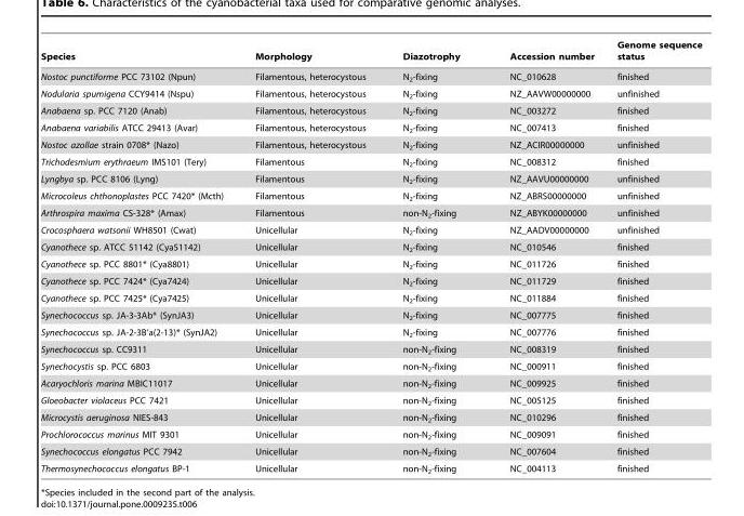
<table><thead><tr><td>Species</td><td>Morphology</td><td>Diazotrophy</td><td>Accession number</td><td>Genome sequence status</td></tr></thead><tbody><tr><td>Nostoc punctiforme PCC 73102 (Npun)</td><td>Filamentous, heterocystous</td><td>N<sub>2</sub>-fixing</td><td>NC_010628</td><td>finished</td></tr><tr><td>Nodularia spumigena CCY9414 (Nspu)</td><td>Filamentous, heterocystous</td><td>N<sub>2</sub>-fixing</td><td>NZ_AAVW00000000</td><td>unfinished</td></tr><tr><td>Anabaena sp. PCC 7120 (Anab)</td><td>Filamentous, heterocystous</td><td>N<sub>2</sub>-fixing</td><td>NC_003272</td><td>finished</td></tr><tr><td>Anabaena variabilis ATCC 29413 (Avar)</td><td>Filamentous, heterocystous</td><td>N<sub>2</sub>-fixing</td><td>NC_007413</td><td>finished</td></tr><tr><td>Nostoc azollae strain 0708* (Nazo)</td><td>Filamentous, heterocystous</td><td>N<sub>2</sub>-fixing</td><td>NZ_ACIR00000000</td><td>unfinished</td></tr><tr><td>Trichodesmium erythraeum IMS101 (Tery)</td><td>Filamentous</td><td>N<sub>2</sub>-fixing</td><td>NC_008312</td><td>finished</td></tr><tr><td>Lyngbya sp. PCC 8106 (Lyng)</td><td>Filamentous</td><td>N<sub>2</sub>-fixing</td><td>NZ_AAVU00000000</td><td>unfinished</td></tr><tr><td>Microcoleus chthonoplastes PCC 7420* (Mcth)</td><td>Filamentous</td><td>N<sub>2</sub>-fixing</td><td>NZ_ABRS00000000</td><td>unfinished</td></tr><tr><td>Arthrospira maxima CS-328* (Amax)</td><td>Filamentous</td><td>non-N<sub>2</sub>-fixing</td><td>NZ_ABYK00000000</td><td>unfinished</td></tr><tr><td>Crocosphaera watsonii WH8501 (Cwat)</td><td>Unicellular</td><td>N<sub>2</sub>-fixing</td><td>NZ_AADV00000000</td><td>unfinished</td></tr><tr><td>Cyanothece sp. ATCC 51142 (Cya51142)</td><td>Unicellular</td><td>N<sub>2</sub>-fixing</td><td>NC_010546</td><td>finished</td></tr><tr><td>Cyanothece sp. PCC 8801* (Cya8801)</td><td>Unicellular</td><td>N<sub>2</sub>-fixing</td><td>NC_011726</td><td>finished</td></tr><tr><td>Cyanothece sp. PCC 7424* (Cya7424)</td><td>Unicellular</td><td>N<sub>2</sub>-fixing</td><td>NC_011729</td><td>finished</td></tr><tr><td>Cyanothece sp. PCC 7425* (Cya7425)</td><td>Unicellular</td><td>N<sub>2</sub>-fixing</td><td>NC_011884</td><td>finished</td></tr><tr><td>Synechococcus sp. JA-3-3Ab* (SynJA3)</td><td>Unicellular</td><td>N<sub>2</sub>-fixing</td><td>NC_007775</td><td>finished</td></tr><tr><td>Synechococcus sp. JA-2-3B’a(2-13)* (SynJA2)</td><td>Unicellular</td><td>N<sub>2</sub>-fixing</td><td>NC_007776</td><td>finished</td></tr><tr><td>Synechococcus sp. CC9311</td><td>Unicellular</td><td>non-N<sub>2</sub>-fixing</td><td>NC_008319</td><td>finished</td></tr><tr><td>Synechocystis sp. PCC 6803</td><td>Unicellular</td><td>non-N<sub>2</sub>-fixing</td><td>NC_000911</td><td>finished</td></tr><tr><td>Acaryochloris marina MBIC11017</td><td>Unicellular</td><td>non-N<sub>2</sub>-fixing</td><td>NC_009925</td><td>finished</td></tr><tr><td>Gloeobacter violaceus PCC 7421</td><td>Unicellular</td><td>non-N<sub>2</sub>-fixing</td><td>NC_005125</td><td>finished</td></tr><tr><td>Microcystis aeruginosa NIES-843</td><td>Unicellular</td><td>non-N<sub>2</sub>-fixing</td><td>NC_010296</td><td>finished</td></tr><tr><td>Prochlorococcus marinus MIT 9301</td><td>Unicellular</td><td>non-N<sub>2</sub>-fixing</td><td>NC_009091</td><td>finished</td></tr><tr><td>Synechococcus elongatus PCC 7942</td><td>Unicellular</td><td>non-N<sub>2</sub>-fixing</td><td>NC_007604</td><td>finished</td></tr><tr><td>Thermosynechococcus elongatus BP-1</td><td>Unicellular</td><td>non-N<sub>2</sub>-fixing</td><td>NC_004113</td><td>finished</td></tr></tbody></table>